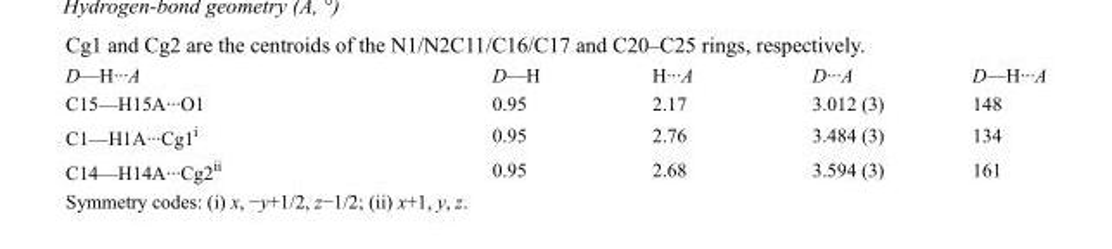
<table><tbody><tr><td>D—H···A</td><td>D—H</td><td>H···A</td><td>D···A</td><td>D—H···A</td></tr><tr><td>C15—H15A···O1</td><td>0.95</td><td>2.17</td><td>3.012 (3)</td><td>148</td></tr><tr><td>C1—H1A···Cg1<sup>i</sup></td><td>0.95</td><td>2.76</td><td>3.484 (3)</td><td>134</td></tr><tr><td>C14—H14A···Cg2<sup>ii</sup></td><td>0.95</td><td>2.68</td><td>3.594 (3)</td><td>161</td></tr></tbody></table>